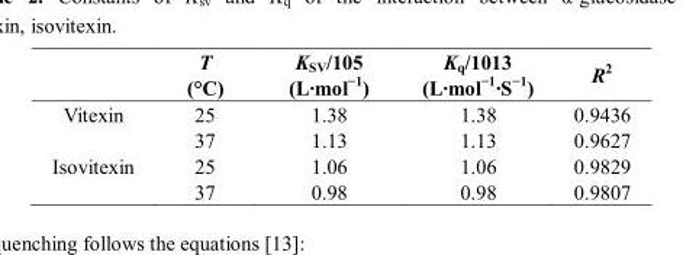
<table><thead><tr><td></td><td>T (°C)</td><td>K<sub>SV</sub>/105 (L·mol<sup>−1</sup>)</td><td>K<sub>q</sub>/1013 (L·mol<sup>−1</sup>·S<sup>−1</sup>)</td><td>R<sup>2</sup></td></tr></thead><tbody><tr><td rowspan="2">Vitexin</td><td>25</td><td>1.38</td><td>1.38</td><td>0.9436</td></tr><tr><td>37</td><td>1.13</td><td>1.13</td><td>0.9627</td></tr><tr><td rowspan="2">Isovitexin</td><td>25</td><td>1.06</td><td>1.06</td><td>0.9829</td></tr><tr><td>37</td><td>0.98</td><td>0.98</td><td>0.9807</td></tr></tbody></table>